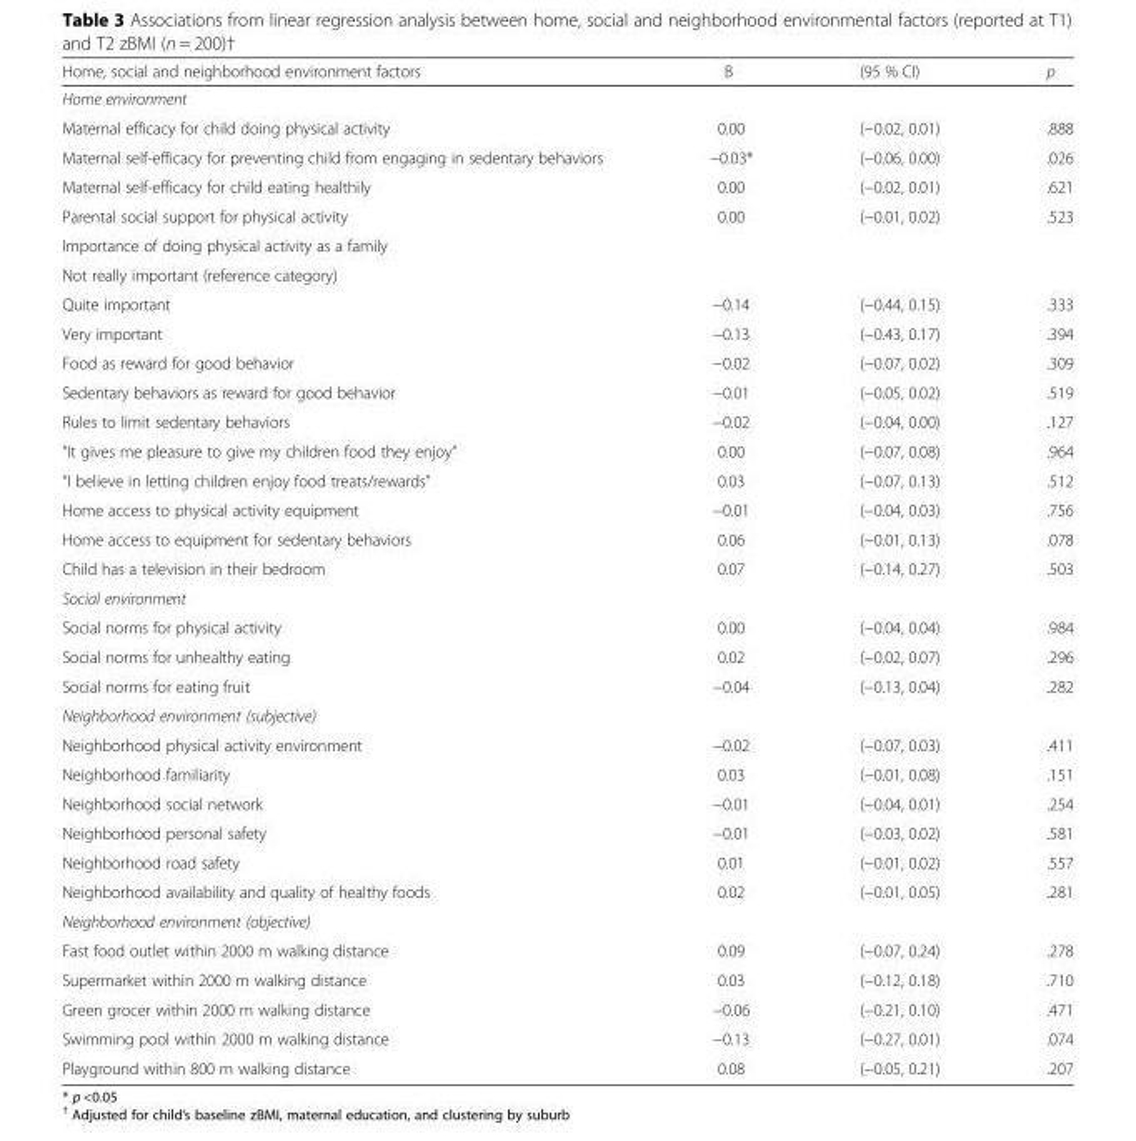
<table><thead><tr><td>Home, social and neighborhood environment factors</td><td>B</td><td>(95 % CI)</td><td>p</td></tr></thead><tbody><tr><td colspan="4">Home environment</td></tr><tr><td>Maternal efficacy for child doing physical activity</td><td>0.00</td><td>(−0.02, 0.01)</td><td>.888</td></tr><tr><td>Maternal self-efficacy for preventing child from engaging in sedentary behaviors</td><td>−0.03*</td><td>(−0.06, 0.00)</td><td>.026</td></tr><tr><td>Maternal self-efficacy for child eating healthily</td><td>0.00</td><td>(−0.02, 0.01)</td><td>.621</td></tr><tr><td>Parental social support for physical activity</td><td>0.00</td><td>(−0.01, 0.02)</td><td>.523</td></tr><tr><td colspan="4">Importance of doing physical activity as a family</td></tr><tr><td colspan="4">Not really important (reference category)</td></tr><tr><td>Quite important</td><td>−0.14</td><td>(−0.44, 0.15)</td><td>.333</td></tr><tr><td>Very important</td><td>−0.13</td><td>(−0.43, 0.17)</td><td>.394</td></tr><tr><td>Food as reward for good behavior</td><td>−0.02</td><td>(−0.07, 0.02)</td><td>.309</td></tr><tr><td>Sedentary behaviors as reward for good behavior</td><td>−0.01</td><td>(−0.05, 0.02)</td><td>.519</td></tr><tr><td>Rules to limit sedentary behaviors</td><td>−0.02</td><td>(−0.04, 0.00)</td><td>.127</td></tr><tr><td>“It gives me pleasure to give my children food they enjoy”</td><td>0.00</td><td>(−0.07, 0.08)</td><td>.964</td></tr><tr><td>“I believe in letting children enjoy food treats/rewards”</td><td>0.03</td><td>(−0.07, 0.13)</td><td>.512</td></tr><tr><td>Home access to physical activity equipment</td><td>−0.01</td><td>(−0.04, 0.03)</td><td>.756</td></tr><tr><td>Home access to equipment for sedentary behaviors</td><td>0.06</td><td>(−0.01, 0.13)</td><td>.078</td></tr><tr><td>Child has a television in their bedroom</td><td>0.07</td><td>(−0.14, 0.27)</td><td>.503</td></tr><tr><td colspan="4">Social environment</td></tr><tr><td>Social norms for physical activity</td><td>0.00</td><td>(−0.04, 0.04)</td><td>.984</td></tr><tr><td>Social norms for unhealthy eating</td><td>0.02</td><td>(−0.02, 0.07)</td><td>.296</td></tr><tr><td>Social norms for eating fruit</td><td>−0.04</td><td>(−0.13, 0.04)</td><td>.282</td></tr><tr><td colspan="4">Neighborhood environment (subjective)</td></tr><tr><td>Neighborhood physical activity environment</td><td>−0.02</td><td>(−0.07, 0.03)</td><td>.411</td></tr><tr><td>Neighborhood familiarity</td><td>0.03</td><td>(−0.01, 0.08)</td><td>.151</td></tr><tr><td>Neighborhood social network</td><td>−0.01</td><td>(−0.04, 0.01)</td><td>.254</td></tr><tr><td>Neighborhood personal safety</td><td>−0.01</td><td>(−0.03, 0.02)</td><td>.581</td></tr><tr><td>Neighborhood road safety</td><td>0.01</td><td>(−0.01, 0.02)</td><td>.557</td></tr><tr><td>Neighborhood availability and quality of healthy foods</td><td>0.02</td><td>(−0.01, 0.05)</td><td>.281</td></tr><tr><td colspan="4">Neighborhood environment (objective)</td></tr><tr><td>Fast food outlet within 2000 m walking distance</td><td>0.09</td><td>(−0.07, 0.24)</td><td>.278</td></tr><tr><td>Supermarket within 2000 m walking distance</td><td>0.03</td><td>(−0.12, 0.18)</td><td>.710</td></tr><tr><td>Green grocer within 2000 m walking distance</td><td>−0.06</td><td>(−0.21, 0.10)</td><td>.471</td></tr><tr><td>Swimming pool within 2000 m walking distance</td><td>−0.13</td><td>(−0.27, 0.01)</td><td>.074</td></tr><tr><td>Playground within 800 m walking distance</td><td>0.08</td><td>(−0.05, 0.21)</td><td>.207</td></tr></tbody></table>